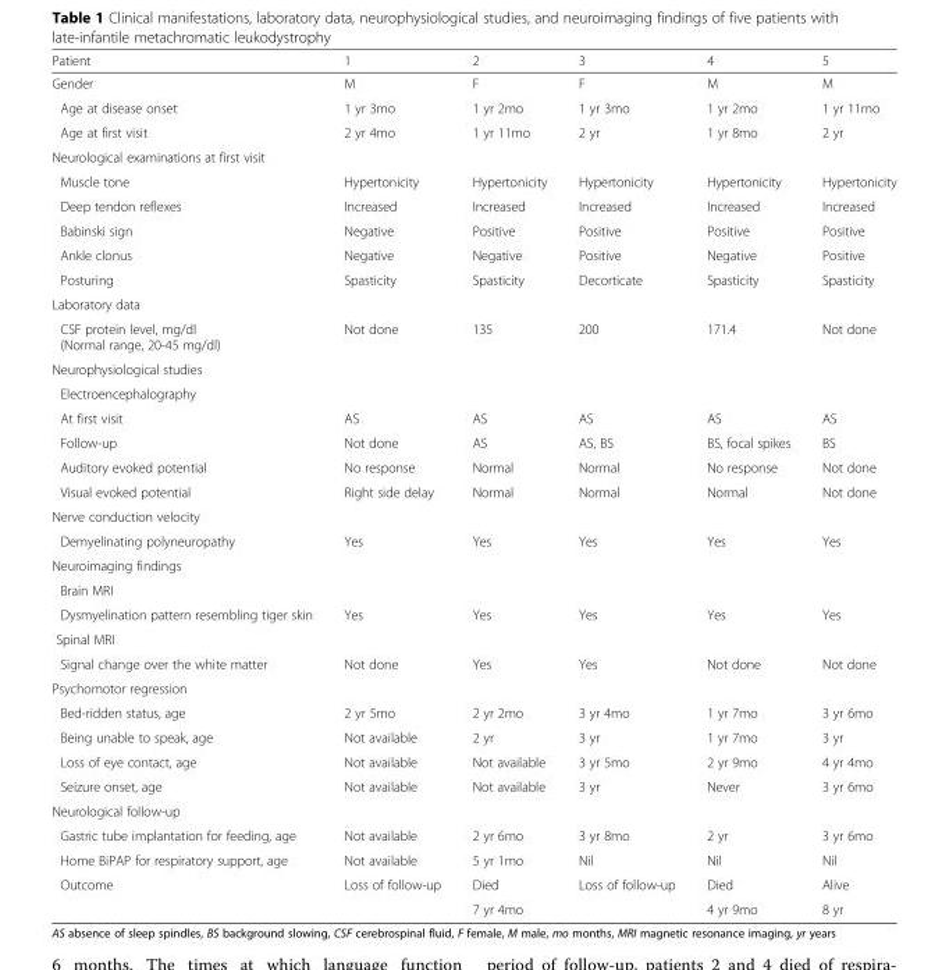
<table><thead><tr><td>Patient</td><td>1</td><td>2</td><td>3</td><td>4</td><td>5</td></tr></thead><tbody><tr><td>Gender</td><td>M</td><td>F</td><td>F</td><td>M</td><td>M</td></tr><tr><td>Age at disease onset</td><td>1 yr 3mo</td><td>1 yr 2mo</td><td>1 yr 3mo</td><td>1 yr 2mo</td><td>1 yr 11mo</td></tr><tr><td>Age at first visit</td><td>2 yr 4mo</td><td>1 yr 11mo</td><td>2 yr</td><td>1 yr 8mo</td><td>2 yr</td></tr><tr><td colspan="6">Neurological examinations at first visit</td></tr><tr><td>Muscle tone</td><td>Hypertonicity</td><td>Hypertonicity</td><td>Hypertonicity</td><td>Hypertonicity</td><td>Hypertonicity</td></tr><tr><td>Deep tendon reflexes</td><td>Increased</td><td>Increased</td><td>Increased</td><td>Increased</td><td>Increased</td></tr><tr><td>Babinski sign</td><td>Negative</td><td>Positive</td><td>Positive</td><td>Positive</td><td>Positive</td></tr><tr><td>Ankle clonus</td><td>Negative</td><td>Negative</td><td>Positive</td><td>Negative</td><td>Positive</td></tr><tr><td>Posturing</td><td>Spasticity</td><td>Spasticity</td><td>Decorticate</td><td>Spasticity</td><td>Spasticity</td></tr><tr><td colspan="6">Laboratory data</td></tr><tr><td>CSF protein level, mg/dl (Normal range, 20-45 mg/dl)</td><td>Not done</td><td>135</td><td>200</td><td>171.4</td><td>Not done</td></tr><tr><td colspan="6">Neurophysiological studies</td></tr><tr><td colspan="6">Electroencephalography</td></tr><tr><td>At first visit</td><td>AS</td><td>AS</td><td>AS</td><td>AS</td><td>AS</td></tr><tr><td>Follow-up</td><td>Not done</td><td>AS</td><td>AS, BS</td><td>BS, focal spikes</td><td>BS</td></tr><tr><td>Auditory evoked potential</td><td>No response</td><td>Normal</td><td>Normal</td><td>No response</td><td>Not done</td></tr><tr><td>Visual evoked potential</td><td>Right side delay</td><td>Normal</td><td>Normal</td><td>Normal</td><td>Not done</td></tr><tr><td colspan="6">Nerve conduction velocity</td></tr><tr><td>Demyelinating polyneuropathy</td><td>Yes</td><td>Yes</td><td>Yes</td><td>Yes</td><td>Yes</td></tr><tr><td colspan="6">Neuroimaging findings</td></tr><tr><td colspan="6">Brain MRI</td></tr><tr><td>Dysmyelination pattern resembling tiger skin</td><td>Yes</td><td>Yes</td><td>Yes</td><td>Yes</td><td>Yes</td></tr><tr><td colspan="6">Spinal MRI</td></tr><tr><td>Signal change over the white matter</td><td>Not done</td><td>Yes</td><td>Yes</td><td>Not done</td><td>Not done</td></tr><tr><td colspan="6">Psychomotor regression</td></tr><tr><td>Bed-ridden status, age</td><td>2 yr 5mo</td><td>2 yr 2mo</td><td>3 yr 4mo</td><td>1 yr 7mo</td><td>3 yr 6mo</td></tr><tr><td>Being unable to speak, age</td><td>Not available</td><td>2 yr</td><td>3 yr</td><td>1 yr 7mo</td><td>3 yr</td></tr><tr><td>Loss of eye contact, age</td><td>Not available</td><td>Not available</td><td>3 yr 5mo</td><td>2 yr 9mo</td><td>4 yr 4mo</td></tr><tr><td>Seizure onset, age</td><td>Not available</td><td>Not available</td><td>3 yr</td><td>Never</td><td>3 yr 6mo</td></tr><tr><td colspan="6">Neurological follow-up</td></tr><tr><td>Gastric tube implantation for feeding, age</td><td>Not available</td><td>2 yr 6mo</td><td>3 yr 8mo</td><td>2 yr</td><td>3 yr 6mo</td></tr><tr><td>Home BiPAP for respiratory support, age</td><td>Not available</td><td>5 yr 1mo</td><td>Nil</td><td>Nil</td><td>Nil</td></tr><tr><td rowspan="2">Outcome</td><td>Loss of follow-up</td><td>Died</td><td>Loss of follow-up</td><td>Died</td><td>Alive</td></tr><tr><td></td><td>7 yr 4mo</td><td></td><td>4 yr 9mo</td><td>8 yr</td></tr></tbody></table>